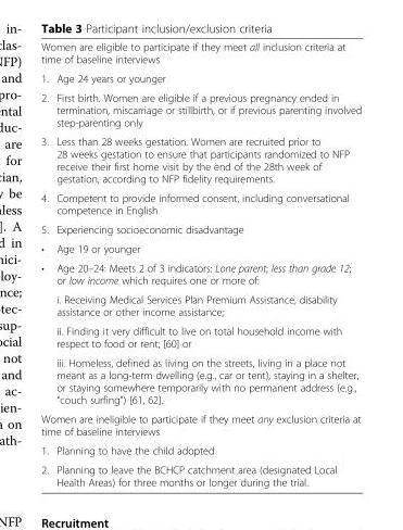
<table><tbody><tr><td colspan="2">Women are eligible to participate if they meet all inclusion criteria at time of baseline interviews</td></tr><tr><td>1.</td><td>Age 24 years or younger</td></tr><tr><td>2.</td><td>First birth. Women are eligible if a previous pregnancy ended in termination, miscarriage or stillbirth, or if previous parenting involved step-parenting only</td></tr><tr><td>3.</td><td>Less than 28 weeks gestation. Women are recruited prior to 28 weeks gestation to ensure that participants randomized to NFP receive their first home visit by the end of the 28th week of gestation, according to NFP fidelity requirements.</td></tr><tr><td>4.</td><td>Competent to provide informed consent, including conversational competence in English</td></tr><tr><td>5.</td><td>Experiencing socioeconomic disadvantage</td></tr><tr><td>•</td><td>Age 19 or younger</td></tr><tr><td rowspan="4">•</td><td>Age 20–24: Meets 2 of 3 indicators: Lone parent; less than grade 12; or low income which requires one or more of:</td></tr><tr><td>i. Receiving Medical Services Plan Premium Assistance, disability assistance or other income assistance;</td></tr><tr><td>ii. Finding it very difficult to live on total household income with respect to food or rent; [60] or</td></tr><tr><td>iii. Homeless, defined as living on the streets, living in a place not meant as a long-term dwelling (e.g., car or tent), staying in a shelter, or staying somewhere temporarily with no permanent address (e.g., “couch surfing”) [61, 62].</td></tr><tr><td colspan="2">Women are ineligible to participate if they meet any exclusion criteria at time of baseline interviews</td></tr><tr><td>1.</td><td>Planning to have the child adopted</td></tr><tr><td>2.</td><td>Planning to leave the BCHCP catchment area (designated Local Health Areas) for three months or longer during the trial.</td></tr></tbody></table>